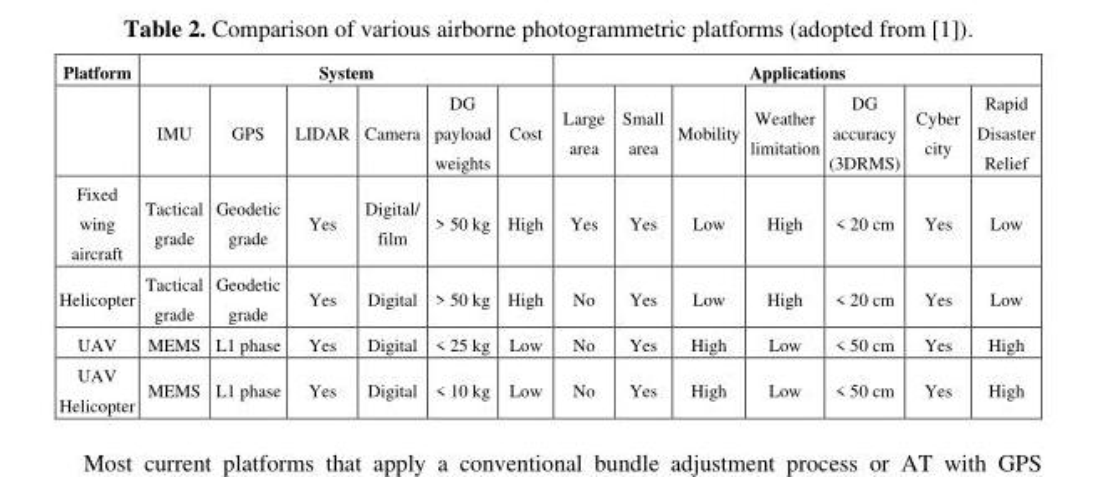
<table><thead><tr><td rowspan="2">Platform</td><td colspan="6">System</td><td colspan="7">Applications</td></tr><tr><td>IMU</td><td>GPS</td><td>LIDAR</td><td>Camera</td><td>DG payload weights</td><td>Cost</td><td>Large area</td><td>Small area</td><td>Mobility</td><td>Weather limitation</td><td>DG accuracy (3DRMS)</td><td>Cyber city</td><td>Rapid Disaster Relief</td></tr></thead><tbody><tr><td>Fixed wing aircraft</td><td>Tactical grade</td><td>Geodetic grade</td><td>Yes</td><td>Digital/ film</td><td>&gt; 50 kg</td><td>High</td><td>Yes</td><td>Yes</td><td>Low</td><td>High</td><td>&lt; 20 cm</td><td>Yes</td><td>Low</td></tr><tr><td>Helicopter</td><td>Tactical grade</td><td>Geodetic grade</td><td>Yes</td><td>Digital</td><td>&gt; 50 kg</td><td>High</td><td>No</td><td>Yes</td><td>Low</td><td>High</td><td>&lt; 20 cm</td><td>Yes</td><td>Low</td></tr><tr><td>UAV</td><td>MEMS</td><td>L1 phase</td><td>Yes</td><td>Digital</td><td>&lt; 25 kg</td><td>Low</td><td>No</td><td>Yes</td><td>High</td><td>Low</td><td>&lt; 50 cm</td><td>Yes</td><td>High</td></tr><tr><td>UAV Helicopter</td><td>MEMS</td><td>L1 phase</td><td>Yes</td><td>Digital</td><td>&lt; 10 kg</td><td>Low</td><td>No</td><td>Yes</td><td>High</td><td>Low</td><td>&lt; 50 cm</td><td>Yes</td><td>High</td></tr></tbody></table>